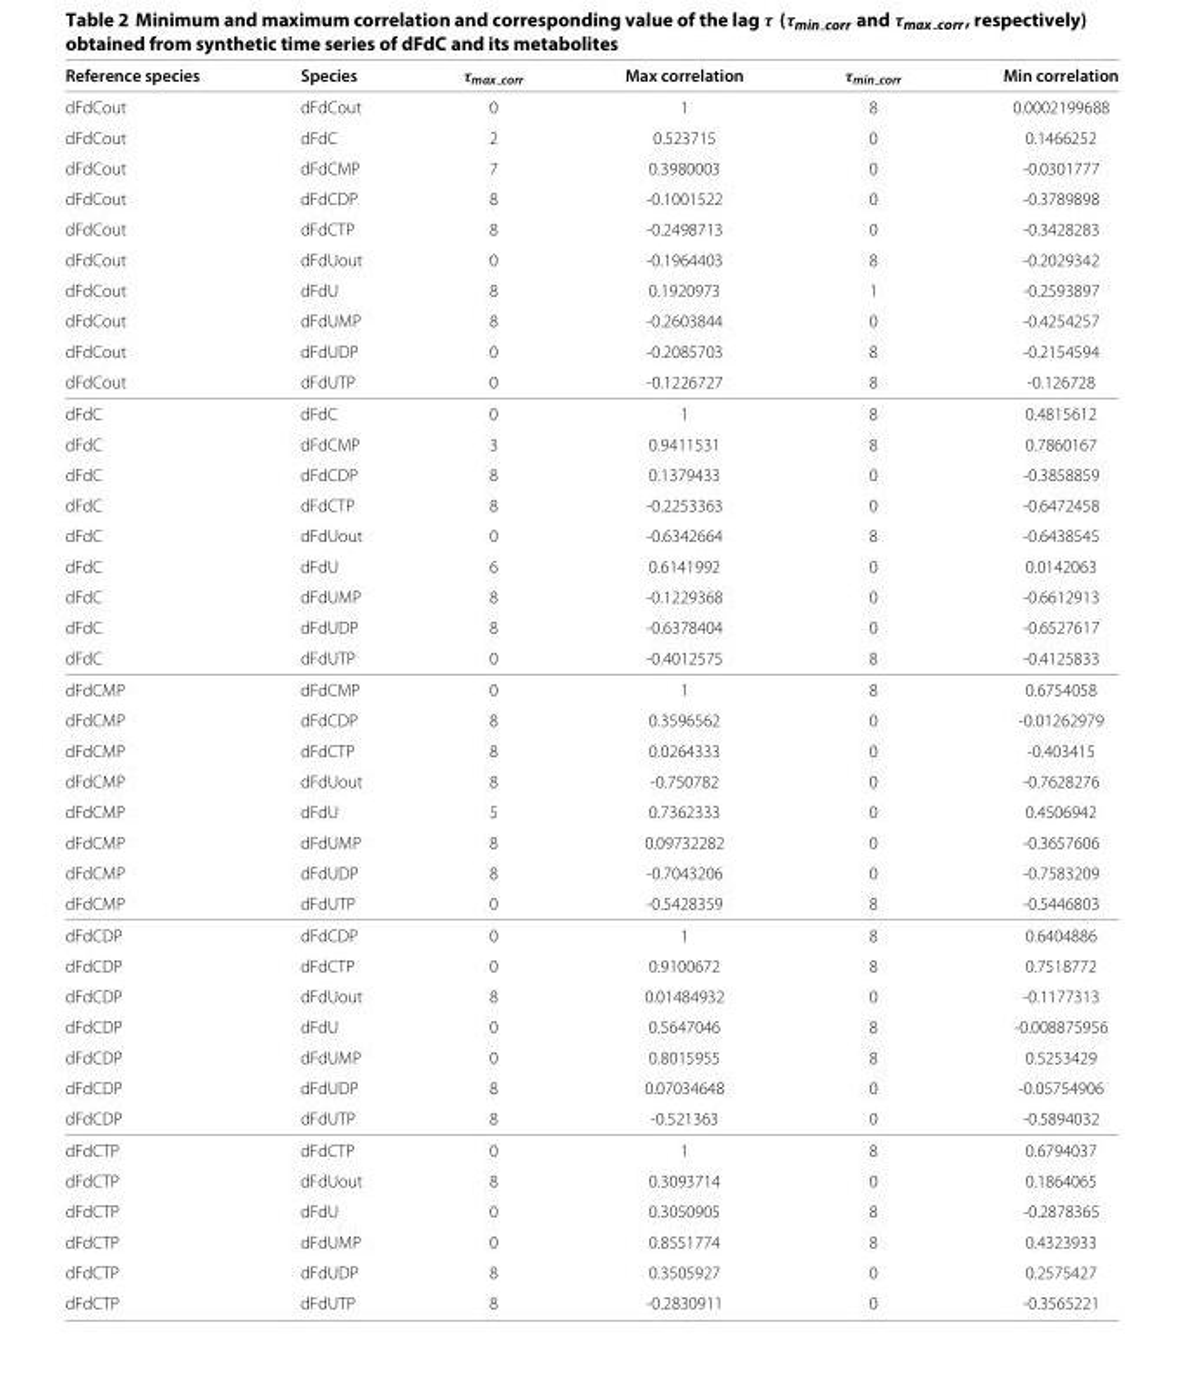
<table><thead><tr><td>Reference species</td><td>Species</td><td>τmax corr</td><td>Max correlation</td><td>τmin corr</td><td>Min correlation</td></tr></thead><tbody><tr><td>dFdCout</td><td>dFdCout</td><td>0</td><td>1</td><td>8</td><td>0.0002199688</td></tr><tr><td>dFdCout</td><td>dFdC</td><td>2</td><td>0.523715</td><td>0</td><td>0.1466252</td></tr><tr><td>dFdCout</td><td>dFdCMP</td><td>7</td><td>0.3980003</td><td>0</td><td>-0.0301777</td></tr><tr><td>dFdCout</td><td>dFdCDP</td><td>8</td><td>-0.1001522</td><td>0</td><td>-0.3789898</td></tr><tr><td>dFdCout</td><td>dFdCTP</td><td>8</td><td>-0.2498713</td><td>0</td><td>-0.3428283</td></tr><tr><td>dFdCout</td><td>dFdUout</td><td>0</td><td>-0.1964403</td><td>8</td><td>-0.2029342</td></tr><tr><td>dFdCout</td><td>dFdU</td><td>8</td><td>0.1920973</td><td>1</td><td>-0.2593897</td></tr><tr><td>dFdCout</td><td>dFdUMP</td><td>8</td><td>-0.2603844</td><td>0</td><td>-0.4254257</td></tr><tr><td>dFdCout</td><td>dFdUDP</td><td>0</td><td>-0.2085703</td><td>8</td><td>-0.2154594</td></tr><tr><td>dFdCout</td><td>dFdUTP</td><td>0</td><td>-0.1226727</td><td>8</td><td>-0.126728</td></tr><tr><td>dFdC</td><td>dFdC</td><td>0</td><td>1</td><td>8</td><td>0.4815612</td></tr><tr><td>dFdC</td><td>dFdCMP</td><td>3</td><td>0.9411531</td><td>8</td><td>0.7860167</td></tr><tr><td>dFdC</td><td>dFdCDP</td><td>8</td><td>0.1379433</td><td>0</td><td>-0.3858859</td></tr><tr><td>dFdC</td><td>dFdCTP</td><td>8</td><td>-0.2253363</td><td>0</td><td>-0.6472458</td></tr><tr><td>dFdC</td><td>dFdUout</td><td>0</td><td>-0.6342664</td><td>8</td><td>-0.6438545</td></tr><tr><td>dFdC</td><td>dFdU</td><td>6</td><td>0.6141992</td><td>0</td><td>0.0142063</td></tr><tr><td>dFdC</td><td>dFdUMP</td><td>8</td><td>-0.1229368</td><td>0</td><td>-0.6612913</td></tr><tr><td>dFdC</td><td>dFdUDP</td><td>8</td><td>-0.6378404</td><td>0</td><td>-0.6527617</td></tr><tr><td>dFdC</td><td>dFdUTP</td><td>0</td><td>-0.4012575</td><td>8</td><td>-0.4125833</td></tr><tr><td>dFdCMP</td><td>dFdCMP</td><td>0</td><td>1</td><td>8</td><td>0.6754058</td></tr><tr><td>dFdCMP</td><td>dFdCDP</td><td>8</td><td>0.3596562</td><td>0</td><td>-0.01262979</td></tr><tr><td>dFdCMP</td><td>dFdCTP</td><td>8</td><td>0.0264333</td><td>0</td><td>-0.403415</td></tr><tr><td>dFdCMP</td><td>dFdUout</td><td>8</td><td>-0.750782</td><td>0</td><td>-0.7628276</td></tr><tr><td>dFdCMP</td><td>dFdU</td><td>5</td><td>0.7362333</td><td>0</td><td>0.4506942</td></tr><tr><td>dFdCMP</td><td>dFdUMP</td><td>8</td><td>0.09732282</td><td>0</td><td>-0.3657606</td></tr><tr><td>dFdCMP</td><td>dFdUDP</td><td>8</td><td>-0.7043206</td><td>0</td><td>-0.7583209</td></tr><tr><td>dFdCMP</td><td>dFdUTP</td><td>0</td><td>-0.5428359</td><td>8</td><td>-0.5446803</td></tr><tr><td>dFdCDP</td><td>dFdCDP</td><td>0</td><td>1</td><td>8</td><td>0.6404886</td></tr><tr><td>dFdCDP</td><td>dFdCTP</td><td>0</td><td>0.9100672</td><td>8</td><td>0.7518772</td></tr><tr><td>dFdCDP</td><td>dFdUout</td><td>8</td><td>0.01484932</td><td>0</td><td>-0.1177313</td></tr><tr><td>dFdCDP</td><td>dFdU</td><td>0</td><td>0.5647046</td><td>8</td><td>-0.008875956</td></tr><tr><td>dFdCDP</td><td>dFdUMP</td><td>0</td><td>0.8015955</td><td>8</td><td>0.5253429</td></tr><tr><td>dFdCDP</td><td>dFdUDP</td><td>8</td><td>0.07034648</td><td>0</td><td>-0.05754906</td></tr><tr><td>dFdCDP</td><td>dFdUTP</td><td>8</td><td>-0.521363</td><td>0</td><td>-0.5894032</td></tr><tr><td>dFdCTP</td><td>dFdCTP</td><td>0</td><td>1</td><td>8</td><td>0.6794037</td></tr><tr><td>dFdCTP</td><td>dFdUout</td><td>8</td><td>0.3093714</td><td>0</td><td>0.1864065</td></tr><tr><td>dFdCTP</td><td>dFdU</td><td>0</td><td>0.3050905</td><td>8</td><td>-0.2878365</td></tr><tr><td>dFdCTP</td><td>dFdUMP</td><td>0</td><td>0.8551774</td><td>8</td><td>0.4323933</td></tr><tr><td>dFdCTP</td><td>dFdUDP</td><td>8</td><td>0.3505927</td><td>0</td><td>0.2575427</td></tr><tr><td>dFdCTP</td><td>dFdUTP</td><td>8</td><td>-0.2830911</td><td>0</td><td>-0.3565221</td></tr></tbody></table>